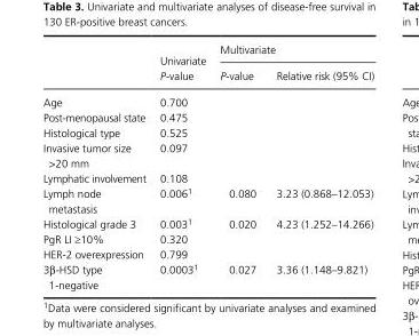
<table><thead><tr><td rowspan="2"></td><td rowspan="2">Univariate P- value</td><td colspan="2">Multivariate</td></tr><tr><td>P- value</td><td>Relative risk (95% CI)</td></tr></thead><tbody><tr><td>Age</td><td>0.700</td><td></td><td></td></tr><tr><td>Post- menopausal state</td><td>0.475</td><td></td><td></td></tr><tr><td>Histological type</td><td>0.525</td><td></td><td></td></tr><tr><td>Invasive tumor size &gt;20 mm</td><td>0.097</td><td></td><td></td></tr><tr><td>Lymphatic involvement</td><td>0.108</td><td></td><td></td></tr><tr><td>Lymph node metastasis</td><td>0.0061</td><td>0.080</td><td>3.23 (0.868–12.053)</td></tr><tr><td>Histological grade 3</td><td>0.0031</td><td>0.020</td><td>4.23 (1.252–14.266)</td></tr><tr><td>PgR LI ≥10%</td><td>0.320</td><td></td><td></td></tr><tr><td>HER- 2 overexpression</td><td>0.799</td><td></td><td></td></tr><tr><td>3β- HSD type 1- negative</td><td>0.00031</td><td>0.027</td><td>3.36 (1.148–9.821)</td></tr></tbody></table>